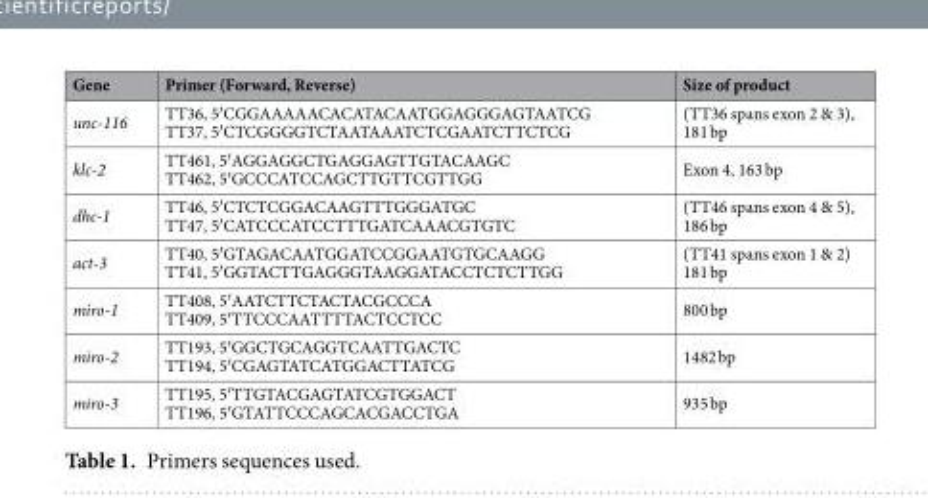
<table><thead><tr><td>Gene</td><td>Primer (Forward, Reverse)</td><td>Size of product</td></tr></thead><tbody><tr><td>unc-116</td><td>TT36, 5′CGGAAAAACACATACAATGGAGGGAGTAATCG TT37, 5′CTCGGGGTCTAATAAATCTCGAATCTTCTCG</td><td>(TT36 spans exon 2 &amp; 3), 181 bp</td></tr><tr><td>klc-2</td><td>TT461, 5′AGGAGGCTGAGGAGTTGTACAAGC TT462, 5′GCCCATCCAGCTTGTTCGTTGG</td><td>Exon 4, 163 bp</td></tr><tr><td>dhc-1</td><td>TT46, 5′CTCTCGGACAAGTTTGGGATGC TT47, 5′CATCCCATCCTTTGATCAAACGTGTC</td><td>(TT46 spans exon 4 &amp; 5), 186 bp</td></tr><tr><td>act-3</td><td>TT40, 5′GTAGACAATGGATCCGGAATGTGCAAGG TT41, 5′GGTACTTGAGGGTAAGGATACCTCTCTTGG</td><td>(TT41 spans exon 1 &amp; 2) 181 bp</td></tr><tr><td>miro-1</td><td>TT408, 5′AATCTTCTACTACGCCCA TT409, 5′TTCCCAATTTTACTCCTCC</td><td>800 bp</td></tr><tr><td>miro-2</td><td>TT193, 5′GGCTGCAGGTCAATTGACTC TT194, 5′CGAGTATCATGGACTTATCG</td><td>1482 bp</td></tr><tr><td>miro-3</td><td>TT195, 5′TTGTACGAGTATCGTGGACT TT196, 5′GTATTCCCAGCACGACCTGA</td><td>935 bp</td></tr></tbody></table>